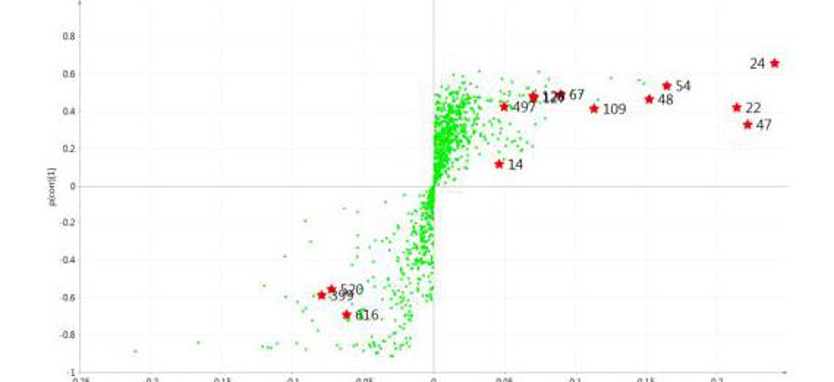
<table><thead><tr><td>Peak</td><td>Variable ID</td><td>VIP</td><td>Formula</td><td>Proposed Compound</td></tr></thead><tbody><tr><td>50</td><td>47</td><td>7.70</td><td>C<sub>19</sub>H<sub>18</sub>O<sub>4</sub></td><td>6,7-dimethoxy-2-(2-phenylethyl)chromone</td></tr><tr><td>13</td><td>24</td><td>7.50</td><td>C<sub>17</sub>H<sub>14</sub>O<sub>4</sub></td><td>6,8-dihydroxy-2-(2-phenylethyl)chromone</td></tr><tr><td>58</td><td>22</td><td>6.83</td><td>C<sub>17</sub>H<sub>14</sub>O<sub>3</sub></td><td>6-methoxy-2-(2-phenylethyl)chromone</td></tr><tr><td>57</td><td>48</td><td>4.81</td><td>C<sub>19</sub>H<sub>18</sub>O<sub>4</sub></td><td>6-methoxy-2-[2-(4-methoxyphenyl)ethyl]chromone</td></tr><tr><td>41</td><td>54</td><td>4.52</td><td>C<sub>18</sub>H<sub>16</sub>O<sub>5</sub></td><td>6-hydroxy-7-methoxy-2-[2-(4’-hydroxyphenyl)ethyl]chromone</td></tr><tr><td>48</td><td>109</td><td>4.01</td><td>C<sub>20</sub>H<sub>20</sub>O<sub>5</sub></td><td>6,7-dimethoxy-2-[2-(4-methoxyphenyl)ethyl]chromone</td></tr><tr><td>42</td><td>14</td><td>3.06</td><td>C<sub>17</sub>H<sub>14</sub>O<sub>3</sub></td><td>7-hydroxy-2-(2-phenylethyl)chromone</td></tr><tr><td>69</td><td>67</td><td>2.62</td><td>C<sub>17</sub>H<sub>18</sub>O<sub>6</sub></td><td>Aquilarone B</td></tr><tr><td>123</td><td>399</td><td>2.13</td><td>C<sub>34</sub>H<sub>26</sub>O<sub>6</sub></td><td>AH11</td></tr><tr><td>113</td><td>520</td><td>2.11</td><td>C<sub>34</sub>H<sub>30</sub>O<sub>8</sub></td><td>AH13</td></tr><tr><td>71</td><td>127</td><td>1.94</td><td>C<sub>18</sub>H<sub>20</sub>O<sub>7</sub></td><td>5,6,7,8-tetrahydroxy-2-(4-methoxyphenethyl)-5,6,7,8-tetrahydrochromone</td></tr><tr><td>67</td><td>126</td><td>1.91</td><td>C<sub>18</sub>H<sub>20</sub>O<sub>7</sub></td><td>5,6,7,8-tetrahydroxy-2-(4-methoxyphenethyl)-5,6,7,8-tetrahydrochromone</td></tr><tr><td>110</td><td>616</td><td>1.68</td><td>C<sub>35</sub>H<sub>32</sub>O<sub>9</sub></td><td>AH12</td></tr><tr><td>94</td><td>497</td><td>1.49</td><td>C<sub>34</sub>H<sub>28</sub>O<sub>8</sub></td><td>AH21</td></tr></tbody></table>